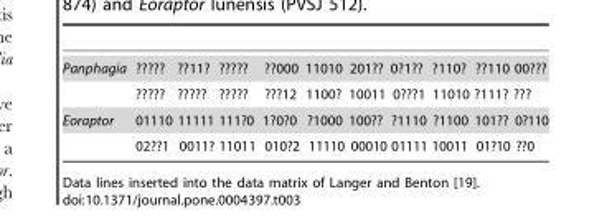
<table><tbody><tr><td rowspan="2">Panphagia</td><td>????? ??11? ????? ??000 11010 201?? 0?1?? ?110? ??110 00???</td></tr><tr><td>????? ????? ????? ???12 1100? 10011 0???1 11010 ?111? ???</td></tr><tr><td rowspan="2">Eoraptor</td><td>01110 11111 111?0 1?0?0 ?1000 100?? ?1110 ?1100 101?? 0?110</td></tr><tr><td>02??1 0011? 11011 010?2 11110 00010 01111 10011 01?10 ??0</td></tr></tbody></table>